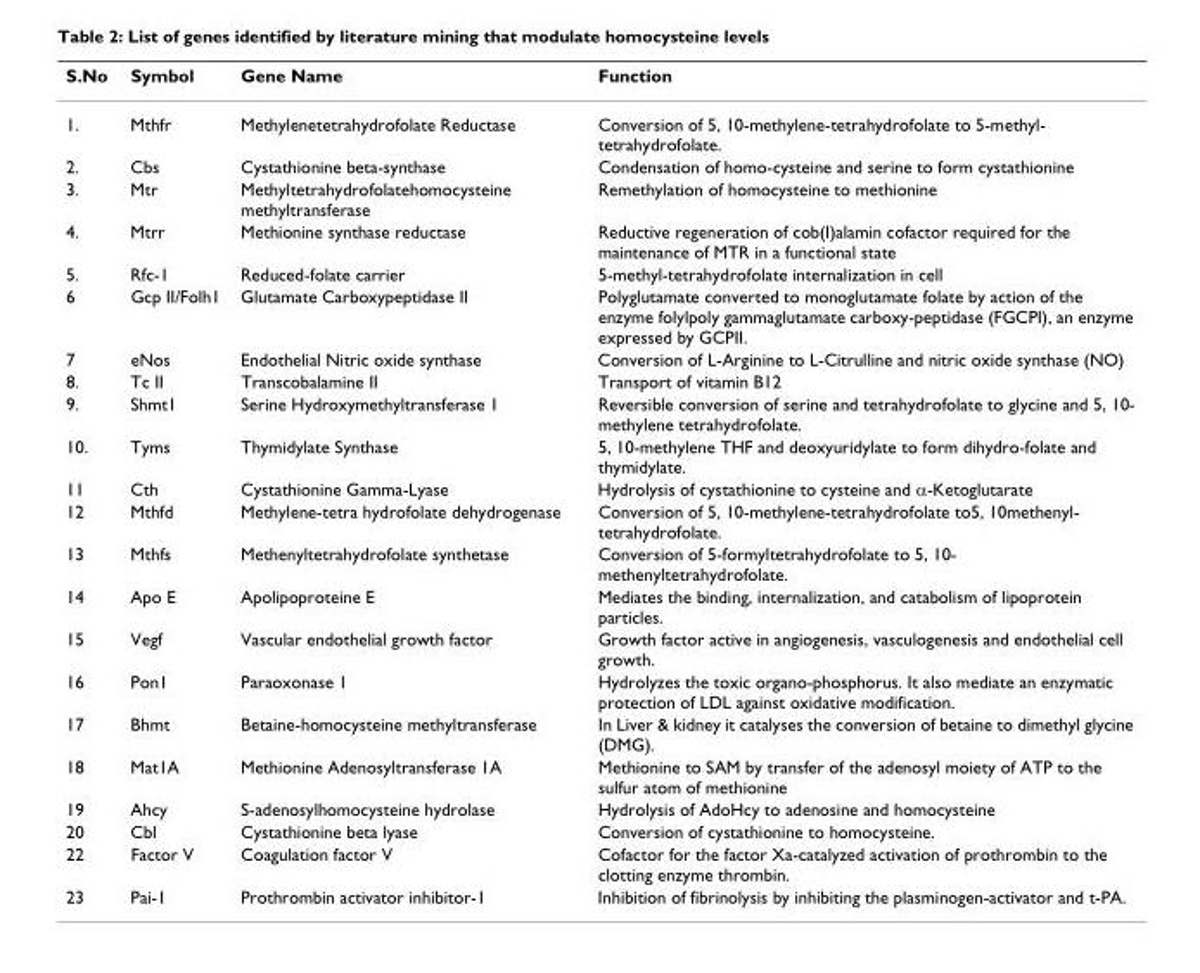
<table><thead><tr><td>S.No</td><td>Symbol</td><td>Gene Name</td><td>Function</td></tr></thead><tbody><tr><td>1.</td><td>Mthfr</td><td>Methylenetetrahydrofolate Reductase</td><td>Conversion of 5, 10-methylene-tetrahydrofolate to 5-methyl- tetrahydrofolate.</td></tr><tr><td>2.</td><td>Cbs</td><td>Cystathionine beta-synthase</td><td>Condensation of homo-cysteine and serine to form cystathionine</td></tr><tr><td>3.</td><td>Mtr</td><td>Methyltetrahydrofolatehomocysteine methyltransferase</td><td>Remethylation of homocysteine to methionine</td></tr><tr><td>4.</td><td>Mtrr</td><td>Methionine synthase reductase</td><td>Reductive regeneration of cob(I)alamin cofactor required for the maintenance of MTR in a functional state</td></tr><tr><td>5.</td><td>Rfc-1</td><td>Reduced-folate carrier</td><td>5-methyl-tetrahydrofolate internalization in cell</td></tr><tr><td>6</td><td>Gcp II/Folh1</td><td>Glutamate Carboxypeptidase II</td><td>Polyglutamate converted to monoglutamate folate by action of the enzyme folylpoly gammaglutamate carboxy-peptidase (FGCPI), an enzyme expressed by GCPII.</td></tr><tr><td>7</td><td>eNos</td><td>Endothelial Nitric oxide synthase</td><td>Conversion of L-Arginine to L-Citrulline and nitric oxide synthase (NO)</td></tr><tr><td>8.</td><td>Tc II</td><td>Transcobalamine II</td><td>Transport of vitamin B12</td></tr><tr><td>9.</td><td>Shmt1</td><td>Serine Hydroxymethyltransferase 1</td><td>Reversible conversion of serine and tetrahydrofolate to glycine and 5, 10- methylene tetrahydrofolate.</td></tr><tr><td>10.</td><td>Tyms</td><td>Thymidylate Synthase</td><td>5, 10-methylene THF and deoxyuridylate to form dihydro-folate and thymidylate.</td></tr><tr><td>11</td><td>Cth</td><td>Cystathionine Gamma-Lyase</td><td>Hydrolysis of cystathionine to cysteine and α-Ketoglutarate</td></tr><tr><td>12</td><td>Mthfd</td><td>Methylene-tetra hydrofolate dehydrogenase</td><td>Conversion of 5, 10-methylene-tetrahydrofolate to5, 10methenyl- tetrahydrofolate.</td></tr><tr><td>13</td><td>Mthfs</td><td>Methenyltetrahydrofolate synthetase</td><td>Conversion of 5-formyltetrahydrofolate to 5, 10- methenyltetrahydrofolate.</td></tr><tr><td>14</td><td>Apo E</td><td>Apolipoproteine E</td><td>Mediates the binding, internalization, and catabolism of lipoprotein particles.</td></tr><tr><td>15</td><td>Vegf</td><td>Vascular endothelial growth factor</td><td>Growth factor active in angiogenesis, vasculogenesis and endothelial cell growth.</td></tr><tr><td>16</td><td>Pon1</td><td>Paraoxonase 1</td><td>Hydrolyzes the toxic organo-phosphorus. It also mediate an enzymatic protection of LDL against oxidative modification.</td></tr><tr><td>17</td><td>Bhmt</td><td>Betaine-homocysteine methyltransferase</td><td>In Liver &amp; kidney it catalyses the conversion of betaine to dimethyl glycine (DMG).</td></tr><tr><td>18</td><td>Mat1A</td><td>Methionine Adenosyltransferase 1A</td><td>Methionine to SAM by transfer of the adenosyl moiety of ATP to the sulfur atom of methionine</td></tr><tr><td>19</td><td>Ahcy</td><td>S-adenosylhomocysteine hydrolase</td><td>Hydrolysis of AdoHcy to adenosine and homocysteine</td></tr><tr><td>20</td><td>Cbl</td><td>Cystathionine beta lyase</td><td>Conversion of cystathionine to homocysteine.</td></tr><tr><td>22</td><td>Factor V</td><td>Coagulation factor V</td><td>Cofactor for the factor Xa-catalyzed activation of prothrombin to the clotting enzyme thrombin.</td></tr><tr><td>23</td><td>Pai-1</td><td>Prothrombin activator inhibitor-1</td><td>Inhibition of fibrinolysis by inhibiting the plasminogen-activator and t-PA.</td></tr></tbody></table>